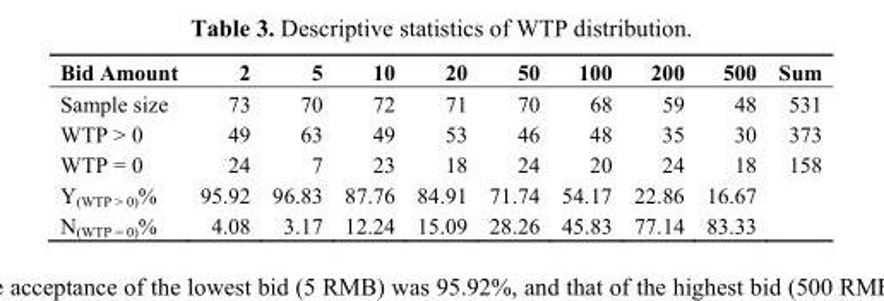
<table><thead><tr><td>Bid Amount</td><td>2</td><td>5</td><td>10</td><td>20</td><td>50</td><td>100</td><td>200</td><td>500</td><td>Sum</td></tr></thead><tbody><tr><td>Sample size</td><td>73</td><td>70</td><td>72</td><td>71</td><td>70</td><td>68</td><td>59</td><td>48</td><td>531</td></tr><tr><td>WTP &gt; 0</td><td>49</td><td>63</td><td>49</td><td>53</td><td>46</td><td>48</td><td>35</td><td>30</td><td>373</td></tr><tr><td>WTP = 0</td><td>24</td><td>7</td><td>23</td><td>18</td><td>24</td><td>20</td><td>24</td><td>18</td><td>158</td></tr><tr><td>Y<sub>(WTP &gt; 0)</sub>%</td><td>95.92</td><td>96.83</td><td>87.76</td><td>84.91</td><td>71.74</td><td>54.17</td><td>22.86</td><td>16.67</td><td></td></tr><tr><td>N<sub>(WTP = 0)</sub>%</td><td>4.08</td><td>3.17</td><td>12.24</td><td>15.09</td><td>28.26</td><td>45.83</td><td>77.14</td><td>83.33</td><td></td></tr></tbody></table>